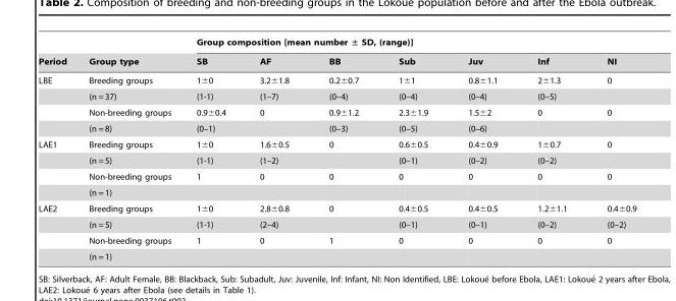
<table><thead><tr><td rowspan="2">Period</td><td rowspan="2">Group type</td><td colspan="7">Group composition [mean number ± SD, (range)]</td></tr><tr><td>SB</td><td>AF</td><td>BB</td><td>Sub</td><td>Juv</td><td>Inf</td><td>NI</td></tr></thead><tbody><tr><td rowspan="4">LBE</td><td>Breeding groups</td><td>1±0</td><td>3.2±1.8</td><td>0.2±0.7</td><td>1±1</td><td>0.8±1.1</td><td>2±1.3</td><td>0</td></tr><tr><td>(n = 37)</td><td>(1-1)</td><td>(1–7)</td><td>(0–4)</td><td>(0–4)</td><td>(0–4)</td><td>(0–5)</td><td></td></tr><tr><td>Non-breeding groups</td><td>0.9±0.4</td><td>0</td><td>0.9±1.2</td><td>2.3±1.9</td><td>1.5±2</td><td>0</td><td>0</td></tr><tr><td>(n = 8)</td><td>(0–1)</td><td></td><td>(0–3)</td><td>(0–5)</td><td>(0–6)</td><td></td><td></td></tr><tr><td rowspan="4">LAE1</td><td>Breeding groups</td><td>1±0</td><td>1.6±0.5</td><td>0</td><td>0.6±0.5</td><td>0.4±0.9</td><td>1±0.7</td><td>0</td></tr><tr><td>(n = 5)</td><td>(1-1)</td><td>(1–2)</td><td></td><td>(0–1)</td><td>(0–2)</td><td>(0–2)</td><td></td></tr><tr><td>Non-breeding groups</td><td>1</td><td>0</td><td>0</td><td>0</td><td>0</td><td>0</td><td>0</td></tr><tr><td>(n = 1)</td><td></td><td></td><td></td><td></td><td></td><td></td><td></td></tr><tr><td rowspan="4">LAE2</td><td>Breeding groups</td><td>1±0</td><td>2.8±0.8</td><td>0</td><td>0.4±0.5</td><td>0.4±0.5</td><td>1.2±1.1</td><td>0.4±0.9</td></tr><tr><td>(n = 5)</td><td>(1-1)</td><td>(2–4)</td><td></td><td>(0–1)</td><td>(0–1)</td><td>(0–2)</td><td>(0–2)</td></tr><tr><td>Non-breeding groups</td><td>1</td><td>0</td><td>1</td><td>0</td><td>0</td><td>0</td><td>0</td></tr><tr><td>(n = 1)</td><td></td><td></td><td></td><td></td><td></td><td></td><td></td></tr></tbody></table>